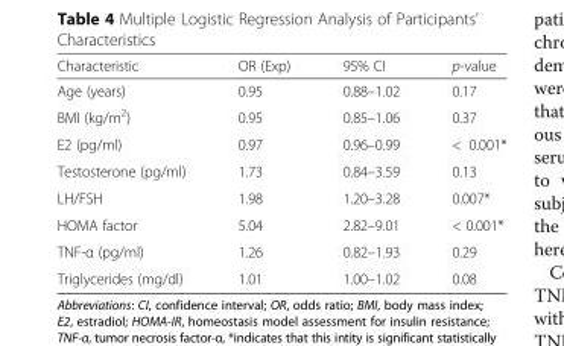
<table><thead><tr><td>Characteristic</td><td>OR (Exp)</td><td>95% CI</td><td>p-value</td></tr></thead><tbody><tr><td>Age (years)</td><td>0.95</td><td>0.88–1.02</td><td>0.17</td></tr><tr><td>BMI (kg/m<sup>2</sup>)</td><td>0.95</td><td>0.85–1.06</td><td>0.37</td></tr><tr><td>E2 (pg/ml)</td><td>0.97</td><td>0.96–0.99</td><td>&lt; 0.001*</td></tr><tr><td>Testosterone (pg/ml)</td><td>1.73</td><td>0.84–3.59</td><td>0.13</td></tr><tr><td>LH/FSH</td><td>1.98</td><td>1.20–3.28</td><td>0.007*</td></tr><tr><td>HOMA factor</td><td>5.04</td><td>2.82–9.01</td><td>&lt; 0.001*</td></tr><tr><td>TNF-α (pg/ml)</td><td>1.26</td><td>0.82–1.93</td><td>0.29</td></tr><tr><td>Triglycerides (mg/dl)</td><td>1.01</td><td>1.00–1.02</td><td>0.08</td></tr></tbody></table>